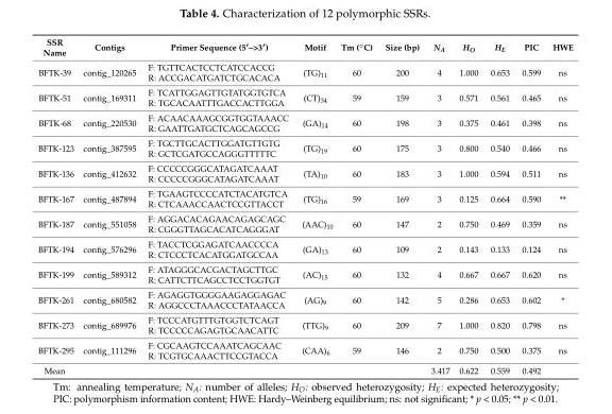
<table><thead><tr><td>SSR Name</td><td>Contigs</td><td>Primer Sequence (5′–&gt;3′)</td><td>Motif</td><td>Tm (◦C)</td><td>Size (bp)</td><td>N<sub>A</sub></td><td>H<sub>O</sub></td><td>H<sub>E</sub></td><td>PIC</td><td>HWE</td></tr></thead><tbody><tr><td>BFTK-39</td><td>contig_120265</td><td>F: TGTTCACTCCTCATCCACCG R: ACCGACATGATCTGCACACA</td><td>(TG)<sub>11</sub></td><td>60</td><td>200</td><td>4</td><td>1.000</td><td>0.653</td><td>0.599</td><td>ns</td></tr><tr><td>BFTK-51</td><td>contig_169311</td><td>F: TCATTGGAGTTGTATGGTGTCA R: TGCACAATTTGACCACTTGGA</td><td>(CT)<sub>34</sub></td><td>59</td><td>159</td><td>3</td><td>0.571</td><td>0.561</td><td>0.465</td><td>ns</td></tr><tr><td>BFTK-68</td><td>contig_220530</td><td>F: ACAACAAAGCGGTGGTAAACC R: GAATTGATGCTCAGCAGCCG</td><td>(GA)<sub>14</sub></td><td>60</td><td>198</td><td>3</td><td>0.375</td><td>0.461</td><td>0.398</td><td>ns</td></tr><tr><td>BFTK-123</td><td>contig_387595</td><td>F: TGCTTGCACTTGGATGTTGTG R: GCTCGATGCCAGGGTTTTTC</td><td>(TG)<sub>19</sub></td><td>60</td><td>175</td><td>3</td><td>0.800</td><td>0.540</td><td>0.466</td><td>ns</td></tr><tr><td>BFTK-136</td><td>contig_412632</td><td>F: CCCCCGGGCATAGATCAAAT R: CCCCCGGGCATAGATCAAAT</td><td>(TA)<sub>10</sub></td><td>60</td><td>183</td><td>3</td><td>1.000</td><td>0.594</td><td>0.511</td><td>ns</td></tr><tr><td>BFTK-167</td><td>contig_487894</td><td>F: TGAAGTCCCCATCTACATGTCA R: CTCAAACCAACTCCGTTACCT</td><td>(TG)<sub>16</sub></td><td>59</td><td>169</td><td>3</td><td>0.125</td><td>0.664</td><td>0.590</td><td>**</td></tr><tr><td>BFTK-187</td><td>contig_551058</td><td>F: AGGACACAGAACAGAGCAGC R: CGGGTTAGCACATCAGGGAT</td><td>(AAC)<sub>10</sub></td><td>60</td><td>147</td><td>2</td><td>0.750</td><td>0.469</td><td>0.359</td><td>ns</td></tr><tr><td>BFTK-194</td><td>contig_576296</td><td>F: TACCTCGGAGATCAACCCCA R: CTCCCTCACATGGATGCCAA</td><td>(GA)<sub>13</sub></td><td>60</td><td>109</td><td>2</td><td>0.143</td><td>0.133</td><td>0.124</td><td>ns</td></tr><tr><td>BFTK-199</td><td>contig_589312</td><td>F: ATAGGGCACGACTAGCTTGC R: CATTCTTCAGCCTCCTGGTGT</td><td>(AC)<sub>15</sub></td><td>60</td><td>132</td><td>4</td><td>0.667</td><td>0.667</td><td>0.620</td><td>ns</td></tr><tr><td>BFTK-261</td><td>contig_680582</td><td>F: AGAGGTGGGGAAGAGGAGAC R: AGGCCCTAAACCCTATAACCA</td><td>(AG)<sub>9</sub></td><td>60</td><td>142</td><td>5</td><td>0.286</td><td>0.653</td><td>0.602</td><td>*</td></tr><tr><td>BFTK-273</td><td>contig_689976</td><td>F: TCCCATGTTTGTGGTCTCAGT R: TCCCCCAGAGTGCAACATTC</td><td>(TTG)<sub>9</sub></td><td>60</td><td>209</td><td>7</td><td>1.000</td><td>0.820</td><td>0.798</td><td>ns</td></tr><tr><td>BFTK-295</td><td>contig_111296</td><td>F: CGCAAGTCCAAATCAGCAAC R: TCGTGCAAACTTCCGTACCA</td><td>(CAA)<sub>6</sub></td><td>59</td><td>146</td><td>2</td><td>0.750</td><td>0.500</td><td>0.375</td><td>ns</td></tr><tr><td>Mean</td><td></td><td></td><td></td><td></td><td></td><td>3.417</td><td>0.622</td><td>0.559</td><td>0.492</td><td></td></tr></tbody></table>